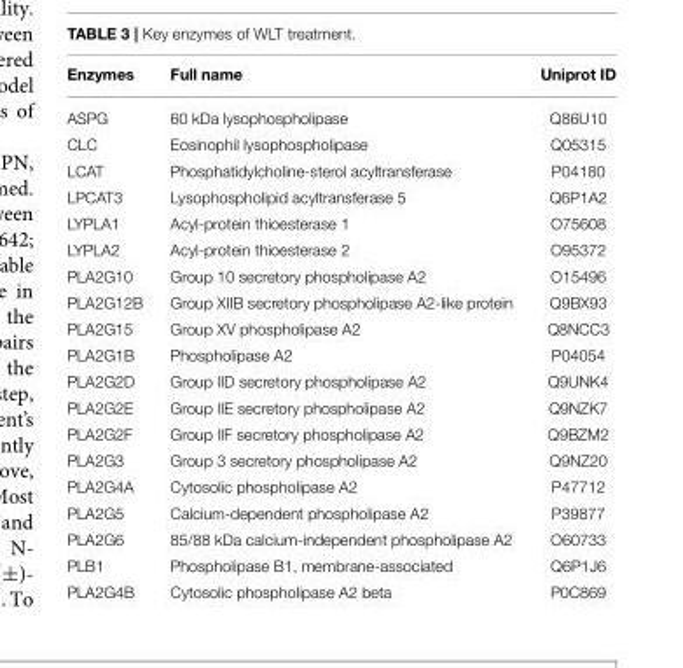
<table><thead><tr><td>Enzymes</td><td>Full name</td><td>Uniprot ID</td></tr></thead><tbody><tr><td>ASPG</td><td>60 kDa lysophospholipase</td><td>Q86U10</td></tr><tr><td>CLC</td><td>Eosinophil lysophospholipase</td><td>Q05315</td></tr><tr><td>LCAT</td><td>Phosphatidylcholine-sterol acyltransferase</td><td>P04180</td></tr><tr><td>LPCAT3</td><td>Lysophospholipid acyltransferase 5</td><td>Q6P1A2</td></tr><tr><td>LYPLA1</td><td>Acyl-protein thioesterase 1</td><td>O75608</td></tr><tr><td>LYPLA2</td><td>Acyl-protein thioesterase 2</td><td>O95372</td></tr><tr><td>PLA2G10</td><td>Group 10 secretory phospholipase A2</td><td>O15496</td></tr><tr><td>PLA2G12B</td><td>Group XIIB secretory phospholipase A2-like protein</td><td>Q9BX93</td></tr><tr><td>PLA2G15</td><td>Group XV phospholipase A2</td><td>Q8NCC3</td></tr><tr><td>PLA2G1B</td><td>Phospholipase A2</td><td>P04054</td></tr><tr><td>PLA2G2D</td><td>Group IID secretory phospholipase A2</td><td>Q9UNK4</td></tr><tr><td>PLA2G2E</td><td>Group IIE secretory phospholipase A2</td><td>Q9NZK7</td></tr><tr><td>PLA2G2F</td><td>Group IIF secretory phospholipase A2</td><td>Q9BZM2</td></tr><tr><td>PLA2G3</td><td>Group 3 secretory phospholipase A2</td><td>Q9NZ20</td></tr><tr><td>PLA2G4A</td><td>Cytosolic phospholipase A2</td><td>P47712</td></tr><tr><td>PLA2G5</td><td>Calcium-dependent phospholipase A2</td><td>P39877</td></tr><tr><td>PLA2G6</td><td>85/88 kDa calcium-independent phospholipase A2</td><td>O60733</td></tr><tr><td>PLB1</td><td>Phospholipase B1, membrane-associated</td><td>Q6P1J6</td></tr><tr><td>PLA2G4B</td><td>Cytosolic phospholipase A2 beta</td><td>P0C869</td></tr></tbody></table>